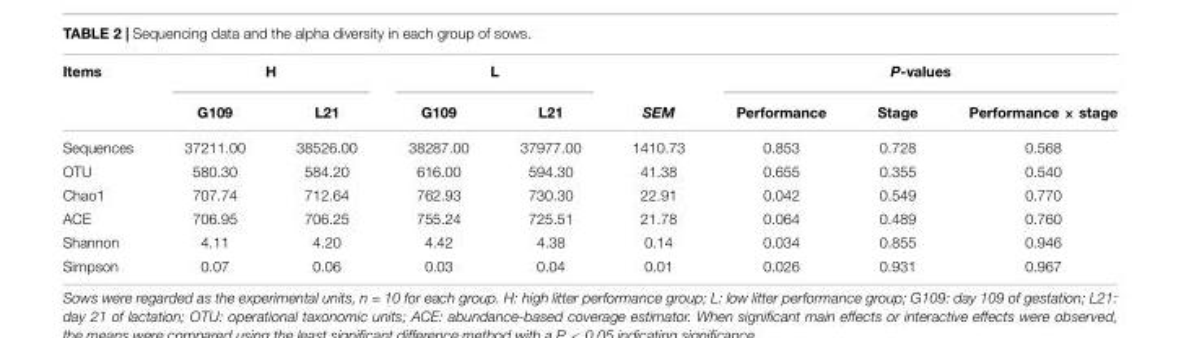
<table><thead><tr><td rowspan="2">Items</td><td colspan="2">H</td><td colspan="2">L</td><td rowspan="2">SEM</td><td colspan="3">P-values</td></tr><tr><td>G109</td><td>L21</td><td>G109</td><td>L21</td><td>Performance</td><td>Stage</td><td>Performance × stage</td></tr></thead><tbody><tr><td>Sequences</td><td>37211.00</td><td>38526.00</td><td>38287.00</td><td>37977.00</td><td>1410.73</td><td>0.853</td><td>0.728</td><td>0.568</td></tr><tr><td>OTU</td><td>580.30</td><td>584.20</td><td>616.00</td><td>594.30</td><td>41.38</td><td>0.655</td><td>0.355</td><td>0.540</td></tr><tr><td>Chao1</td><td>707.74</td><td>712.64</td><td>762.93</td><td>730.30</td><td>22.91</td><td>0.042</td><td>0.549</td><td>0.770</td></tr><tr><td>ACE</td><td>706.95</td><td>706.25</td><td>755.24</td><td>725.51</td><td>21.78</td><td>0.064</td><td>0.489</td><td>0.760</td></tr><tr><td>Shannon</td><td>4.11</td><td>4.20</td><td>4.42</td><td>4.38</td><td>0.14</td><td>0.034</td><td>0.855</td><td>0.946</td></tr><tr><td>Simpson</td><td>0.07</td><td>0.06</td><td>0.03</td><td>0.04</td><td>0.01</td><td>0.026</td><td>0.931</td><td>0.967</td></tr></tbody></table>